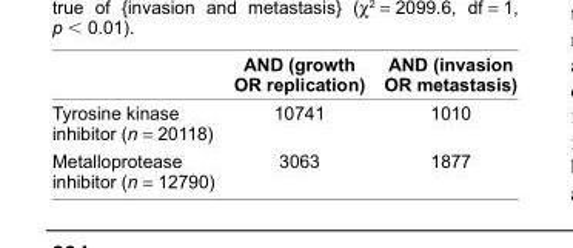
<table><thead><tr><td></td><td>AnD (growth OR replication)</td><td>AnD (invasion OR metastasis)</td></tr></thead><tbody><tr><td>Tyrosine kinase inhibitor (n = 20118)</td><td>10741</td><td>1010</td></tr><tr><td>Metalloprotease inhibitor (n = 12790)</td><td>3063</td><td>1877</td></tr></tbody></table>